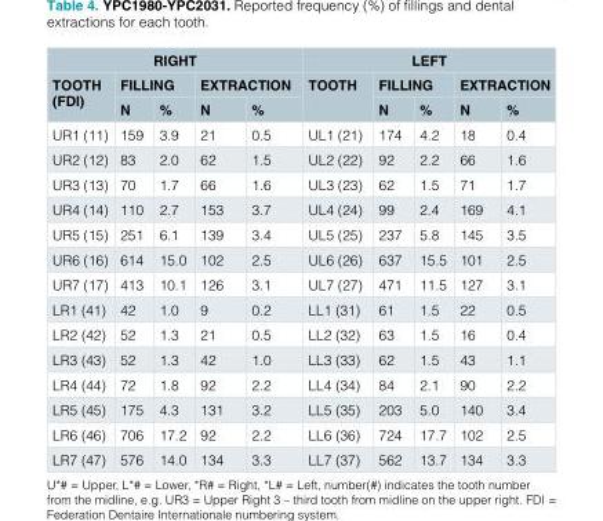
<table><thead><tr><td colspan="5">RIGHT</td><td colspan="5">LEFT</td></tr><tr><td rowspan="2">TOOTH (FDI)</td><td colspan="2">FILLING</td><td colspan="2">EXTRACTION</td><td rowspan="2">TOOTH</td><td colspan="2">FILLING</td><td colspan="2">EXTRACTION</td></tr><tr><td>N</td><td>%</td><td>N</td><td>%</td><td>N</td><td>%</td><td>N</td><td>%</td></tr></thead><tbody><tr><td>UR1 (11)</td><td>159</td><td>3.9</td><td>21</td><td>0.5</td><td>UL1 (21)</td><td>174</td><td>4.2</td><td>18</td><td>0.4</td></tr><tr><td>UR2 (12)</td><td>83</td><td>2.0</td><td>62</td><td>1.5</td><td>UL2 (22)</td><td>92</td><td>2.2</td><td>66</td><td>1.6</td></tr><tr><td>UR3 (13)</td><td>70</td><td>1.7</td><td>66</td><td>1.6</td><td>UL3 (23)</td><td>62</td><td>1.5</td><td>71</td><td>1.7</td></tr><tr><td>UR4 (14)</td><td>110</td><td>2.7</td><td>153</td><td>3.7</td><td>UL4 (24)</td><td>99</td><td>2.4</td><td>169</td><td>4.1</td></tr><tr><td>UR5 (15)</td><td>251</td><td>6.1</td><td>139</td><td>3.4</td><td>UL5 (25)</td><td>237</td><td>5.8</td><td>145</td><td>3.5</td></tr><tr><td>UR6 (16)</td><td>614</td><td>15.0</td><td>102</td><td>2.5</td><td>UL6 (26)</td><td>637</td><td>15.5</td><td>101</td><td>2.5</td></tr><tr><td>UR7 (17)</td><td>413</td><td>10.1</td><td>126</td><td>3.1</td><td>UL7 (27)</td><td>471</td><td>11.5</td><td>127</td><td>3.1</td></tr><tr><td>LR1 (41)</td><td>42</td><td>1.0</td><td>9</td><td>0.2</td><td>LL1 (31)</td><td>61</td><td>1.5</td><td>22</td><td>0.5</td></tr><tr><td>LR2 (42)</td><td>52</td><td>1.3</td><td>21</td><td>0.5</td><td>LL2 (32)</td><td>63</td><td>1.5</td><td>16</td><td>0.4</td></tr><tr><td>LR3 (43)</td><td>52</td><td>1.3</td><td>42</td><td>1.0</td><td>LL3 (33)</td><td>62</td><td>1.5</td><td>43</td><td>1.1</td></tr><tr><td>LR4 (44)</td><td>72</td><td>1.8</td><td>92</td><td>2.2</td><td>LL4 (34)</td><td>84</td><td>2.1</td><td>90</td><td>2.2</td></tr><tr><td>LR5 (45)</td><td>175</td><td>4.3</td><td>131</td><td>3.2</td><td>LL5 (35)</td><td>203</td><td>5.0</td><td>140</td><td>3.4</td></tr><tr><td>LR6 (46)</td><td>706</td><td>17.2</td><td>92</td><td>2.2</td><td>LL6 (36)</td><td>724</td><td>17.7</td><td>102</td><td>2.5</td></tr><tr><td>LR7 (47)</td><td>576</td><td>14.0</td><td>134</td><td>3.3</td><td>LL7 (37)</td><td>562</td><td>13.7</td><td>134</td><td>3.3</td></tr></tbody></table>